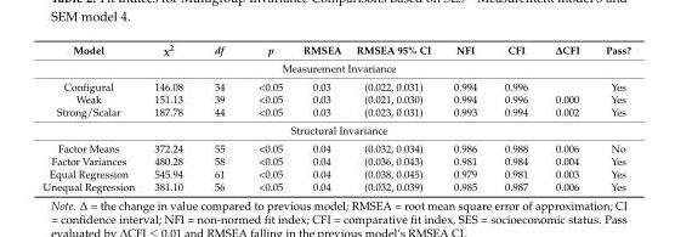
<table><thead><tr><td>Model</td><td>χ<sup>2</sup></td><td>df</td><td>p</td><td>RMSEA</td><td>RMSEA 95% CI</td><td>NFI</td><td>CFI</td><td>∆CFI</td><td>Pass?</td></tr></thead><tbody><tr><td colspan="10">Measurement Invariance</td></tr><tr><td>Configural</td><td>146.08</td><td>34</td><td>&lt;0.05</td><td>0.03</td><td>(0.022, 0.031)</td><td>0.994</td><td>0.996</td><td></td><td>Yes</td></tr><tr><td>Weak</td><td>151.13</td><td>39</td><td>&lt;0.05</td><td>0.03</td><td>(0.021, 0.030)</td><td>0.994</td><td>0.996</td><td>0.000</td><td>Yes</td></tr><tr><td>Strong/Scalar</td><td>187.78</td><td>44</td><td>&lt;0.05</td><td>0.03</td><td>(0.023, 0.031)</td><td>0.993</td><td>0.994</td><td>0.002</td><td>Yes</td></tr><tr><td colspan="10">Structural Invariance</td></tr><tr><td>Factor Means</td><td>372.24</td><td>55</td><td>&lt;0.05</td><td>0.04</td><td>(0.032, 0.034)</td><td>0.986</td><td>0.988</td><td>0.006</td><td>No</td></tr><tr><td>Factor Variances</td><td>480.28</td><td>58</td><td>&lt;0.05</td><td>0.04</td><td>(0.036, 0.043)</td><td>0.981</td><td>0.984</td><td>0.004</td><td>Yes</td></tr><tr><td>Equal Regression</td><td>545.94</td><td>61</td><td>&lt;0.05</td><td>0.04</td><td>(0.038, 0.045)</td><td>0.979</td><td>0.981</td><td>0.003</td><td>Yes</td></tr><tr><td>Unequal Regression</td><td>381.10</td><td>56</td><td>&lt;0.05</td><td>0.04</td><td>(0.032, 0.039)</td><td>0.985</td><td>0.987</td><td>0.006</td><td>Yes</td></tr></tbody></table>